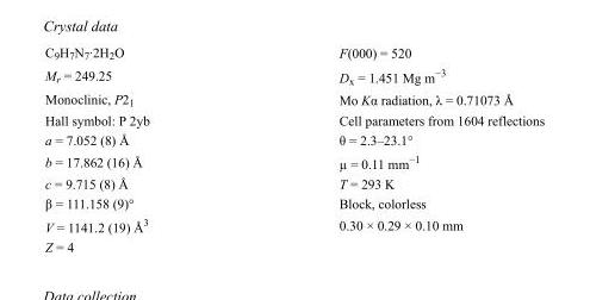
<table><tbody><tr><td>C<sub>9</sub>H<sub>7</sub>N<sub>7</sub>·2H<sub>2</sub>O</td><td>F(000) = 520</td></tr><tr><td>M<sub>r</sub> = 249.25</td><td>D<sub>x</sub> = 1.451 Mg m<sup>−3</sup></td></tr><tr><td>Monoclinic, P2<sub>1</sub></td><td>Mo Kα radiation, λ = 0.71073 Å</td></tr><tr><td>Hall symbol: P 2yb</td><td>Cell parameters from 1604 reflections</td></tr><tr><td>a = 7.052 (8) Å</td><td>θ = 2.3–23.1°</td></tr><tr><td>b = 17.862 (16) Å</td><td>µ = 0.11 mm<sup>−1</sup></td></tr><tr><td>c = 9.715 (8) Å</td><td>T = 293 K</td></tr><tr><td>β = 111.158 (9)°</td><td>Block, colorless</td></tr><tr><td>V = 1141.2 (19) Å<sup>3</sup></td><td>0.30 × 0.29 × 0.10 mm</td></tr><tr><td>Z = 4</td><td></td></tr></tbody></table>